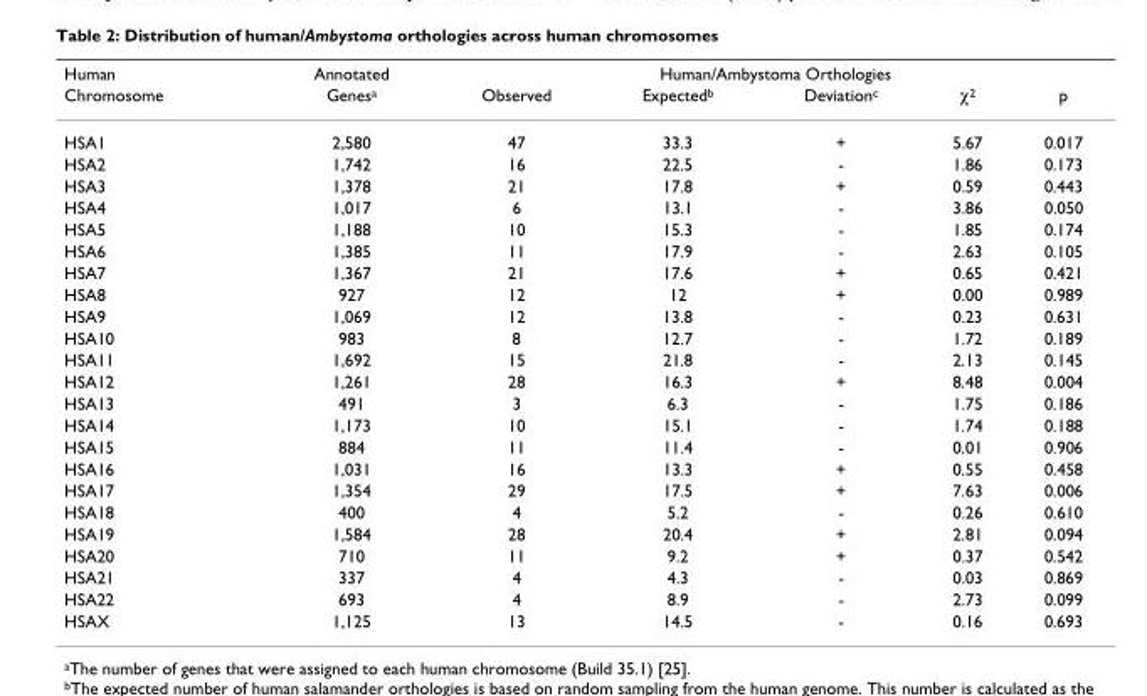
<table><thead><tr><td rowspan="2">Human Chromosome</td><td rowspan="2">Annotated Genesa</td><td colspan="5">Human/Ambystoma Orthologies</td></tr><tr><td>Observed</td><td>Expectedb</td><td>Deviationc</td><td>χ2</td><td>p</td></tr></thead><tbody><tr><td>HSA1</td><td>2,580</td><td>47</td><td>33.3</td><td>+</td><td>5.67</td><td>0.017</td></tr><tr><td>HSA2</td><td>1,742</td><td>16</td><td>22.5</td><td>-</td><td>1.86</td><td>0.173</td></tr><tr><td>HSA3</td><td>1,378</td><td>21</td><td>17.8</td><td>+</td><td>0.59</td><td>0.443</td></tr><tr><td>HSA4</td><td>1,017</td><td>6</td><td>13.1</td><td>-</td><td>3.86</td><td>0.050</td></tr><tr><td>HSA5</td><td>1,188</td><td>10</td><td>15.3</td><td>-</td><td>1.85</td><td>0.174</td></tr><tr><td>HSA6</td><td>1,385</td><td>11</td><td>17.9</td><td>-</td><td>2.63</td><td>0.105</td></tr><tr><td>HSA7</td><td>1,367</td><td>21</td><td>17.6</td><td>+</td><td>0.65</td><td>0.421</td></tr><tr><td>HSA8</td><td>927</td><td>12</td><td>12</td><td>+</td><td>0.00</td><td>0.989</td></tr><tr><td>HSA9</td><td>1,069</td><td>12</td><td>13.8</td><td>-</td><td>0.23</td><td>0.631</td></tr><tr><td>HSA10</td><td>983</td><td>8</td><td>12.7</td><td>-</td><td>1.72</td><td>0.189</td></tr><tr><td>HSA11</td><td>1,692</td><td>15</td><td>21.8</td><td>-</td><td>2.13</td><td>0.145</td></tr><tr><td>HSA12</td><td>1,261</td><td>28</td><td>16.3</td><td>+</td><td>8.48</td><td>0.004</td></tr><tr><td>HSA13</td><td>491</td><td>3</td><td>6.3</td><td>-</td><td>1.75</td><td>0.186</td></tr><tr><td>HSA14</td><td>1,173</td><td>10</td><td>15.1</td><td>-</td><td>1.74</td><td>0.188</td></tr><tr><td>HSA15</td><td>884</td><td>11</td><td>11.4</td><td>-</td><td>0.01</td><td>0.906</td></tr><tr><td>HSA16</td><td>1,031</td><td>16</td><td>13.3</td><td>+</td><td>0.55</td><td>0.458</td></tr><tr><td>HSA17</td><td>1,354</td><td>29</td><td>17.5</td><td>+</td><td>7.63</td><td>0.006</td></tr><tr><td>HSA18</td><td>400</td><td>4</td><td>5.2</td><td>-</td><td>0.26</td><td>0.610</td></tr><tr><td>HSA19</td><td>1,584</td><td>28</td><td>20.4</td><td>+</td><td>2.81</td><td>0.094</td></tr><tr><td>HSA20</td><td>710</td><td>11</td><td>9.2</td><td>+</td><td>0.37</td><td>0.542</td></tr><tr><td>HSA21</td><td>337</td><td>4</td><td>4.3</td><td>-</td><td>0.03</td><td>0.869</td></tr><tr><td>HSA22</td><td>693</td><td>4</td><td>8.9</td><td>-</td><td>2.73</td><td>0.099</td></tr><tr><td>HSAX</td><td>1,125</td><td>13</td><td>14.5</td><td>-</td><td>0.16</td><td>0.693</td></tr></tbody></table>